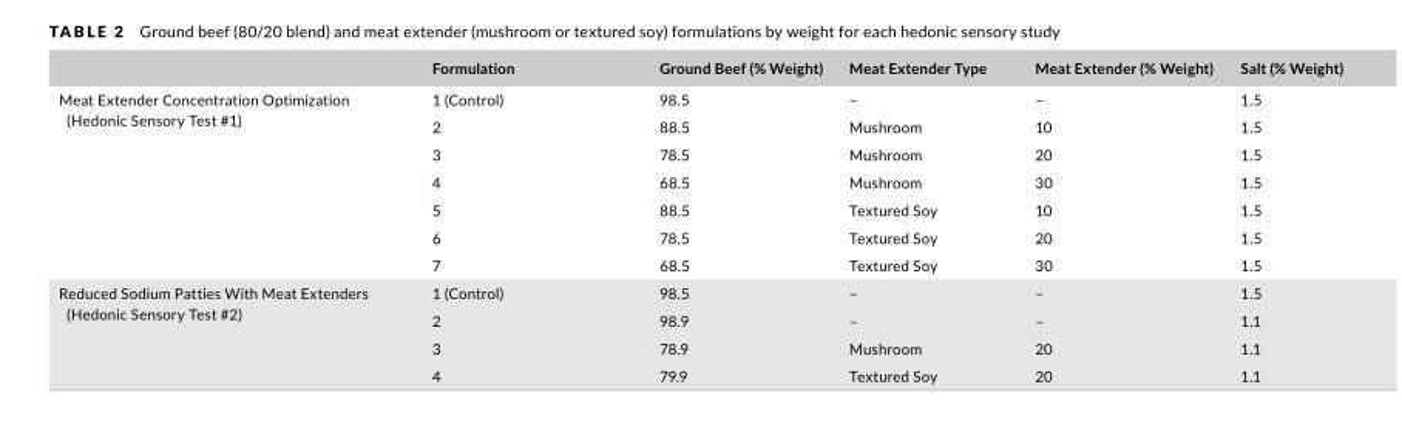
<table><thead><tr><td></td><td>Formulation</td><td>Ground Beef (% Weight)</td><td>Meat Extender Type</td><td>Meat Extender (% Weight)</td><td>Salt (% Weight)</td></tr></thead><tbody><tr><td rowspan="7">Meat Extender Concentration Optimization (Hedonic Sensory Test #1)</td><td>1 (Control)</td><td>98.5</td><td>–</td><td>–</td><td>1.5</td></tr><tr><td>2</td><td>88.5</td><td>Mushroom</td><td>10</td><td>1.5</td></tr><tr><td>3</td><td>78.5</td><td>Mushroom</td><td>20</td><td>1.5</td></tr><tr><td>4</td><td>68.5</td><td>Mushroom</td><td>30</td><td>1.5</td></tr><tr><td>5</td><td>88.5</td><td>Textured Soy</td><td>10</td><td>1.5</td></tr><tr><td>6</td><td>78.5</td><td>Textured Soy</td><td>20</td><td>1.5</td></tr><tr><td>7</td><td>68.5</td><td>Textured Soy</td><td>30</td><td>1.5</td></tr><tr><td rowspan="4">Reduced Sodium Patties With Meat Extenders (Hedonic Sensory Test #2)</td><td>1 (Control)</td><td>98.5</td><td>–</td><td>–</td><td>1.5</td></tr><tr><td>2</td><td>98.9</td><td>–</td><td>–</td><td>1.1</td></tr><tr><td>3</td><td>78.9</td><td>Mushroom</td><td>20</td><td>1.1</td></tr><tr><td>4</td><td>79.9</td><td>Textured Soy</td><td>20</td><td>1.1</td></tr></tbody></table>